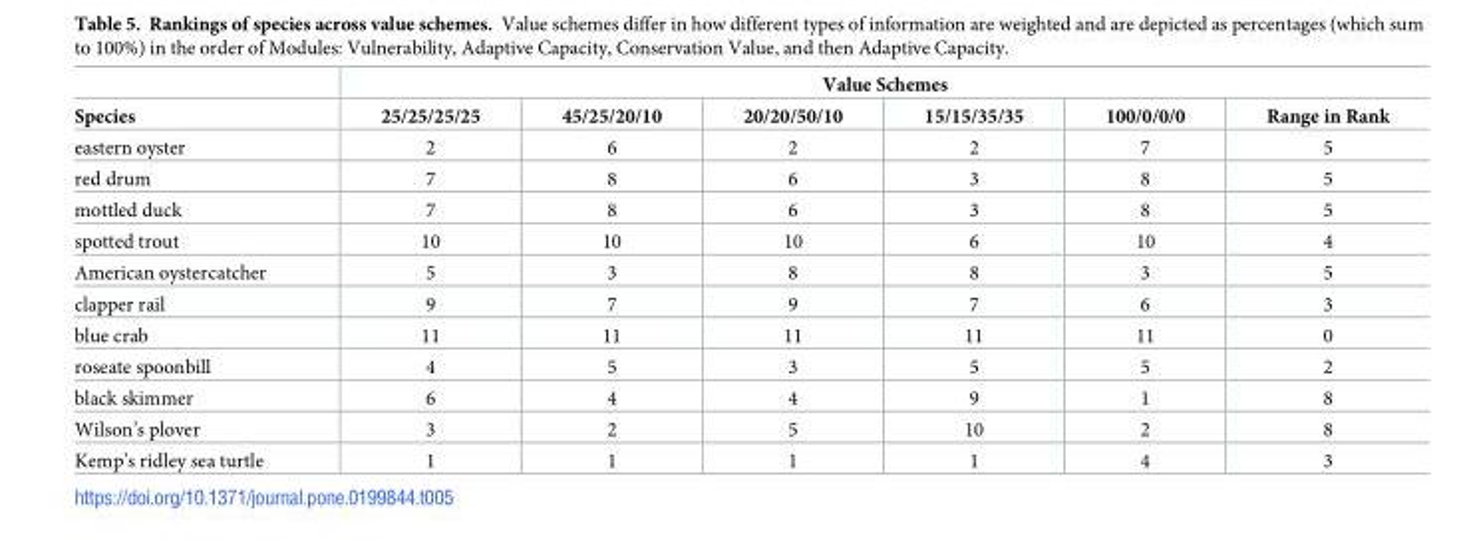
<table><thead><tr><td rowspan="2">Species</td><td colspan="6">Value Schemes</td></tr><tr><td>25/25/25/25</td><td>45/25/20/10</td><td>20/20/50/10</td><td>15/15/35/35</td><td>100/0/0/0</td><td>Range in Rank</td></tr></thead><tbody><tr><td>eastern oyster</td><td>2</td><td>6</td><td>2</td><td>2</td><td>7</td><td>5</td></tr><tr><td>red drum</td><td>7</td><td>8</td><td>6</td><td>3</td><td>8</td><td>5</td></tr><tr><td>mottled duck</td><td>7</td><td>8</td><td>6</td><td>3</td><td>8</td><td>5</td></tr><tr><td>spotted trout</td><td>10</td><td>10</td><td>10</td><td>6</td><td>10</td><td>4</td></tr><tr><td>American oystercatcher</td><td>5</td><td>3</td><td>8</td><td>8</td><td>3</td><td>5</td></tr><tr><td>clapper rail</td><td>9</td><td>7</td><td>9</td><td>7</td><td>6</td><td>3</td></tr><tr><td>blue crab</td><td>11</td><td>11</td><td>11</td><td>11</td><td>11</td><td>0</td></tr><tr><td>roseate spoonbill</td><td>4</td><td>5</td><td>3</td><td>5</td><td>5</td><td>2</td></tr><tr><td>black skimmer</td><td>6</td><td>4</td><td>4</td><td>9</td><td>1</td><td>8</td></tr><tr><td>Wilson’s plover</td><td>3</td><td>2</td><td>5</td><td>10</td><td>2</td><td>8</td></tr><tr><td>Kemp’s ridley sea turtle</td><td>1</td><td>1</td><td>1</td><td>1</td><td>4</td><td>3</td></tr></tbody></table>